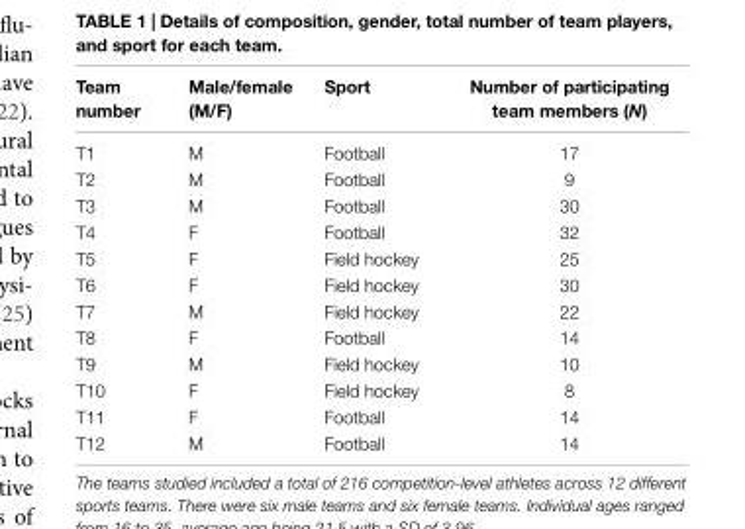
<table><thead><tr><td>Team number</td><td>Male/female (M/F)</td><td>sport</td><td>number of participating team members (N)</td></tr></thead><tbody><tr><td>T1</td><td>M</td><td>Football</td><td>17</td></tr><tr><td>T2</td><td>M</td><td>Football</td><td>9</td></tr><tr><td>T3</td><td>M</td><td>Football</td><td>30</td></tr><tr><td>T4</td><td>F</td><td>Football</td><td>32</td></tr><tr><td>T5</td><td>F</td><td>Field hockey</td><td>25</td></tr><tr><td>T6</td><td>F</td><td>Field hockey</td><td>30</td></tr><tr><td>T7</td><td>M</td><td>Field hockey</td><td>22</td></tr><tr><td>T8</td><td>F</td><td>Football</td><td>14</td></tr><tr><td>T9</td><td>M</td><td>Field hockey</td><td>10</td></tr><tr><td>T10</td><td>F</td><td>Field hockey</td><td>8</td></tr><tr><td>T11</td><td>F</td><td>Football</td><td>14</td></tr><tr><td>T12</td><td>M</td><td>Football</td><td>14</td></tr></tbody></table>